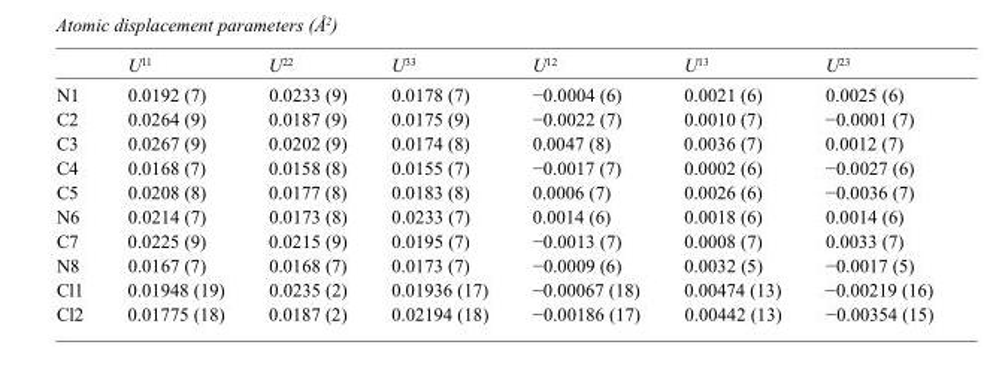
<table><thead><tr><td></td><td>U<sup>11</sup></td><td>U<sup>22</sup></td><td>U<sup>33</sup></td><td>U<sup>12</sup></td><td>U<sup>13</sup></td><td>U<sup>23</sup></td></tr></thead><tbody><tr><td>N1</td><td>0.0192 (7)</td><td>0.0233 (9)</td><td>0.0178 (7)</td><td>−0.0004 (6)</td><td>0.0021 (6)</td><td>0.0025 (6)</td></tr><tr><td>C2</td><td>0.0264 (9)</td><td>0.0187 (9)</td><td>0.0175 (9)</td><td>−0.0022 (7)</td><td>0.0010 (7)</td><td>−0.0001 (7)</td></tr><tr><td>C3</td><td>0.0267 (9)</td><td>0.0202 (9)</td><td>0.0174 (8)</td><td>0.0047 (8)</td><td>0.0036 (7)</td><td>0.0012 (7)</td></tr><tr><td>C4</td><td>0.0168 (7)</td><td>0.0158 (8)</td><td>0.0155 (7)</td><td>−0.0017 (7)</td><td>0.0002 (6)</td><td>−0.0027 (6)</td></tr><tr><td>C5</td><td>0.0208 (8)</td><td>0.0177 (8)</td><td>0.0183 (8)</td><td>0.0006 (7)</td><td>0.0026 (6)</td><td>−0.0036 (7)</td></tr><tr><td>N6</td><td>0.0214 (7)</td><td>0.0173 (8)</td><td>0.0233 (7)</td><td>0.0014 (6)</td><td>0.0018 (6)</td><td>0.0014 (6)</td></tr><tr><td>C7</td><td>0.0225 (9)</td><td>0.0215 (9)</td><td>0.0195 (7)</td><td>−0.0013 (7)</td><td>0.0008 (7)</td><td>0.0033 (7)</td></tr><tr><td>N8</td><td>0.0167 (7)</td><td>0.0168 (7)</td><td>0.0173 (7)</td><td>−0.0009 (6)</td><td>0.0032 (5)</td><td>−0.0017 (5)</td></tr><tr><td>Cl1</td><td>0.01948 (19)</td><td>0.0235 (2)</td><td>0.01936 (17)</td><td>−0.00067 (18)</td><td>0.00474 (13)</td><td>−0.00219 (16)</td></tr><tr><td>Cl2</td><td>0.01775 (18)</td><td>0.0187 (2)</td><td>0.02194 (18)</td><td>−0.00186 (17)</td><td>0.00442 (13)</td><td>−0.00354 (15)</td></tr></tbody></table>